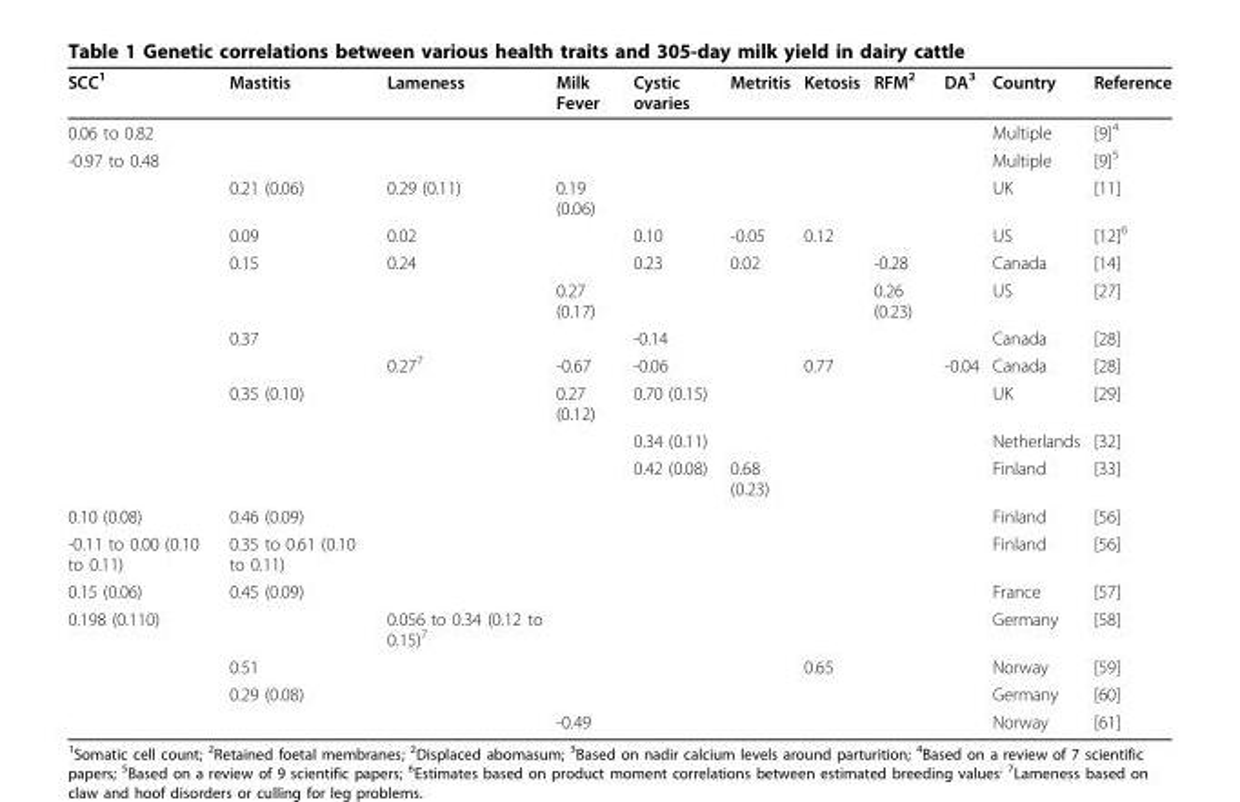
<table><thead><tr><td>SCC<sup>1</sup></td><td>Mastitis</td><td>Lameness</td><td>Milk Fever</td><td>Cystic ovaries</td><td>Metritis</td><td>Ketosis</td><td>RFM<sup>2</sup></td><td>DA<sup>3</sup></td><td>Country</td><td>Reference</td></tr></thead><tbody><tr><td>0.06 to 0.82</td><td></td><td></td><td></td><td></td><td></td><td></td><td></td><td></td><td>Multiple</td><td>[9]<sup>4</sup></td></tr><tr><td rowspan="10">-0.97 to 0.48</td><td></td><td></td><td></td><td></td><td></td><td></td><td></td><td></td><td>Multiple</td><td>[9]<sup>5</sup></td></tr><tr><td>0.21 (0.06)</td><td>0.29 (0.11)</td><td>0.19 (0.06)</td><td></td><td></td><td></td><td></td><td></td><td>UK</td><td>[11]</td></tr><tr><td>0.09</td><td>0.02</td><td></td><td>0.10</td><td>-0.05</td><td>0.12</td><td></td><td></td><td>US</td><td>[12]<sup>6</sup></td></tr><tr><td>0.15</td><td>0.24</td><td></td><td>0.23</td><td>0.02</td><td></td><td>-0.28</td><td></td><td>Canada</td><td>[14]</td></tr><tr><td></td><td></td><td>0.27 (0.17)</td><td></td><td></td><td></td><td>0.26 (0.23)</td><td></td><td>US</td><td>[27]</td></tr><tr><td>0.37</td><td></td><td></td><td>-0.14</td><td></td><td></td><td></td><td></td><td>Canada</td><td>[28]</td></tr><tr><td></td><td>0.27<sup>7</sup></td><td>-0.67</td><td>-0.06</td><td></td><td>0.77</td><td></td><td>-0.04</td><td>Canada</td><td>[28]</td></tr><tr><td>0.35 (0.10)</td><td></td><td>0.27 (0.12)</td><td>0.70 (0.15)</td><td></td><td></td><td></td><td></td><td>UK</td><td>[29]</td></tr><tr><td></td><td></td><td></td><td>0.34 (0.11)</td><td></td><td></td><td></td><td></td><td>Netherlands</td><td>[32]</td></tr><tr><td></td><td></td><td></td><td>0.42 (0.08)</td><td>0.68 (0.23)</td><td></td><td></td><td></td><td>Finland</td><td>[33]</td></tr><tr><td>0.10 (0.08)</td><td>0.46 (0.09)</td><td></td><td></td><td></td><td></td><td></td><td></td><td></td><td>Finland</td><td>[56]</td></tr><tr><td>-0.11 to 0.00 (0.10 to 0.11)</td><td>0.35 to 0.61 (0.10 to 0.11)</td><td></td><td></td><td></td><td></td><td></td><td></td><td></td><td>Finland</td><td>[56]</td></tr><tr><td>0.15 (0.06)</td><td>0.45 (0.09)</td><td></td><td></td><td></td><td></td><td></td><td></td><td></td><td>France</td><td>[57]</td></tr><tr><td rowspan="4">0.198 (0.110)</td><td></td><td>0.056 to 0.34 (0.12 to 0.15)<sup>7</sup></td><td></td><td></td><td></td><td></td><td></td><td></td><td>Germany</td><td>[58]</td></tr><tr><td>0.51</td><td></td><td></td><td></td><td></td><td>0.65</td><td></td><td></td><td>Norway</td><td>[59]</td></tr><tr><td>0.29 (0.08)</td><td></td><td></td><td></td><td></td><td></td><td></td><td></td><td>Germany</td><td>[60]</td></tr><tr><td></td><td></td><td>-0.49</td><td></td><td></td><td></td><td></td><td></td><td>Norway</td><td>[61]</td></tr></tbody></table>